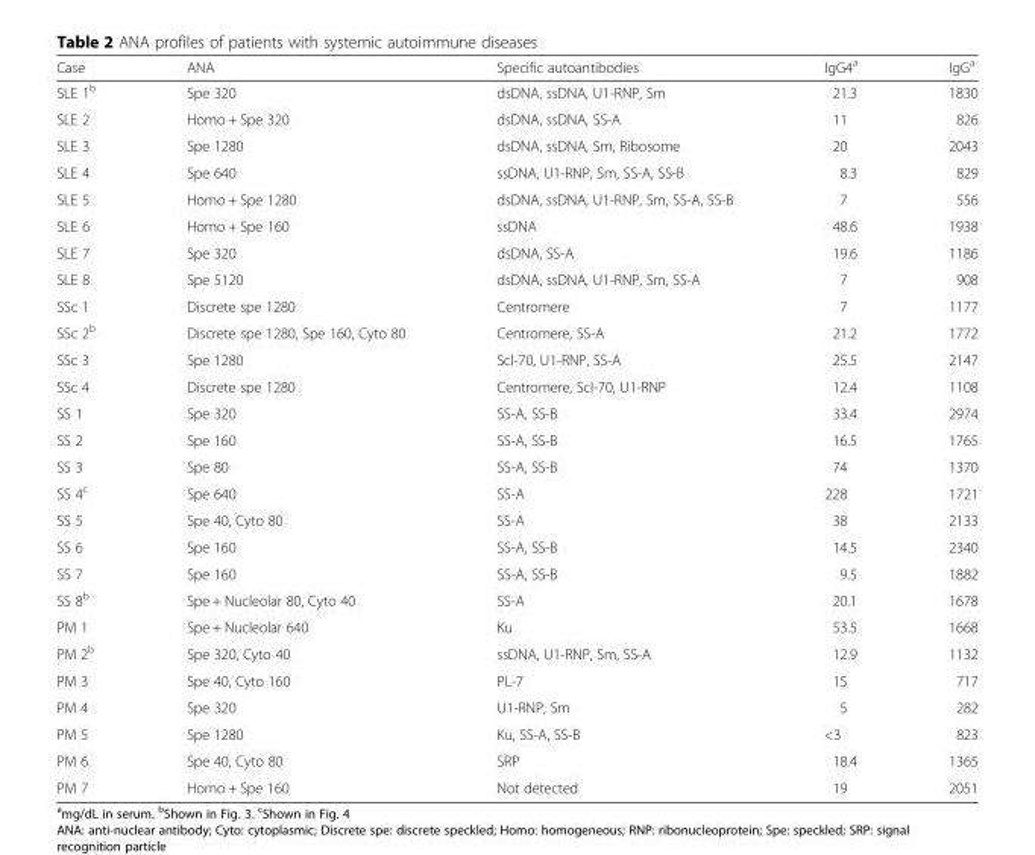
<table><thead><tr><td>Case</td><td>ANA</td><td>Specific autoantibodies</td><td>IgG4<sup>a</sup></td><td>IgG<sup>a</sup></td></tr></thead><tbody><tr><td>SLE 1<sup>b</sup></td><td>Spe 320</td><td>dsDNA, ssDNA, U1-RNP, Sm</td><td>21.3</td><td>1830</td></tr><tr><td>SLE 2</td><td>Homo + Spe 320</td><td>dsDNA, ssDNA, SS-A</td><td>11</td><td>826</td></tr><tr><td>SLE 3</td><td>Spe 1280</td><td>dsDNA, ssDNA, Sm, Ribosome</td><td>20</td><td>2043</td></tr><tr><td>SLE 4</td><td>Spe 640</td><td>ssDNA, U1-RNP, Sm, SS-A, SS-B</td><td>8.3</td><td>829</td></tr><tr><td>SLE 5</td><td>Homo + Spe 1280</td><td>dsDNA, ssDNA, U1-RNP, Sm, SS-A, SS-B</td><td>7</td><td>556</td></tr><tr><td>SLE 6</td><td>Homo + Spe 160</td><td>ssDNA</td><td>48.6</td><td>1938</td></tr><tr><td>SLE 7</td><td>Spe 320</td><td>dsDNA, SS-A</td><td>19.6</td><td>1186</td></tr><tr><td>SLE 8</td><td>Spe 5120</td><td>dsDNA, ssDNA, U1-RNP, Sm, SS-A</td><td>7</td><td>908</td></tr><tr><td>SSc 1</td><td>Discrete spe 1280</td><td>Centromere</td><td>7</td><td>1177</td></tr><tr><td>SSc 2<sup>b</sup></td><td>Discrete spe 1280, Spe 160, Cyto 80</td><td>Centromere, SS-A</td><td>21.2</td><td>1772</td></tr><tr><td>SSc 3</td><td>Spe 1280</td><td>Scl-70, U1-RNP, SS-A</td><td>25.5</td><td>2147</td></tr><tr><td>SSc 4</td><td>Discrete spe 1280</td><td>Centromere, Scl-70, U1-RNP</td><td>12.4</td><td>1108</td></tr><tr><td>SS 1</td><td>Spe 320</td><td>SS-A, SS-B</td><td>33.4</td><td>2974</td></tr><tr><td>SS 2</td><td>Spe 160</td><td>SS-A, SS-B</td><td>16.5</td><td>1765</td></tr><tr><td>SS 3</td><td>Spe 80</td><td>SS-A, SS-B</td><td>74</td><td>1370</td></tr><tr><td>SS 4<sup>c</sup></td><td>Spe 640</td><td>SS-A</td><td>228</td><td>1721</td></tr><tr><td>SS 5</td><td>Spe 40, Cyto 80</td><td>SS-A</td><td>38</td><td>2133</td></tr><tr><td>SS 6</td><td>Spe 160</td><td>SS-A, SS-B</td><td>14.5</td><td>2340</td></tr><tr><td>SS 7</td><td>Spe 160</td><td>SS-A, SS-B</td><td>9.5</td><td>1882</td></tr><tr><td>SS 8<sup>b</sup></td><td>Spe + Nucleolar 80, Cyto 40</td><td>SS-A</td><td>20.1</td><td>1678</td></tr><tr><td>PM 1</td><td>Spe + Nucleolar 640</td><td>Ku</td><td>53.5</td><td>1668</td></tr><tr><td>PM 2<sup>b</sup></td><td>Spe 320, Cyto 40</td><td>ssDNA, U1-RNP, Sm, SS-A</td><td>12.9</td><td>1132</td></tr><tr><td>PM 3</td><td>Spe 40, Cyto 160</td><td>PL-7</td><td>15</td><td>717</td></tr><tr><td>PM 4</td><td>Spe 320</td><td>U1-RNP, Sm</td><td>5</td><td>282</td></tr><tr><td>PM 5</td><td>Spe 1280</td><td>Ku, SS-A, SS-B</td><td>&lt;3</td><td>823</td></tr><tr><td>PM 6</td><td>Spe 40, Cyto 80</td><td>SRP</td><td>18.4</td><td>1365</td></tr><tr><td>PM 7</td><td>Homo + Spe 160</td><td>Not detected</td><td>19</td><td>2051</td></tr></tbody></table>